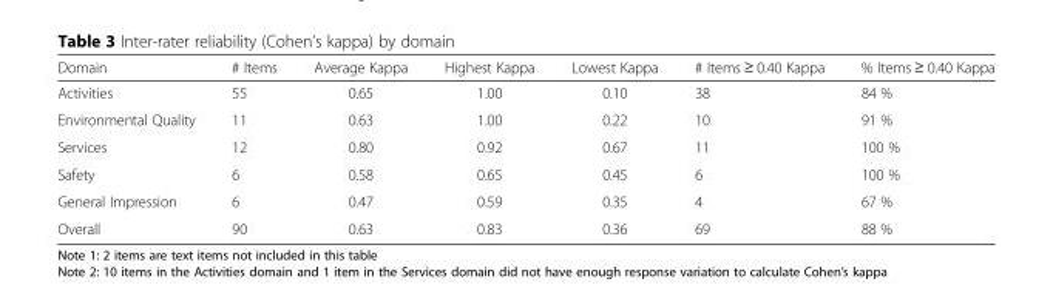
<table><thead><tr><td>Domain</td><td># Items</td><td>Average Kappa</td><td>Highest Kappa</td><td>Lowest Kappa</td><td># Items ≥ 0.40 Kappa</td><td>% Items ≥ 0.40 Kappa</td></tr></thead><tbody><tr><td>Activities</td><td>55</td><td>0.65</td><td>1.00</td><td>0.10</td><td>38</td><td>84 %</td></tr><tr><td>Environmental Quality</td><td>11</td><td>0.63</td><td>1.00</td><td>0.22</td><td>10</td><td>91 %</td></tr><tr><td>Services</td><td>12</td><td>0.80</td><td>0.92</td><td>0.67</td><td>11</td><td>100 %</td></tr><tr><td>Safety</td><td>6</td><td>0.58</td><td>0.65</td><td>0.45</td><td>6</td><td>100 %</td></tr><tr><td>General Impression</td><td>6</td><td>0.47</td><td>0.59</td><td>0.35</td><td>4</td><td>67 %</td></tr><tr><td>Overall</td><td>90</td><td>0.63</td><td>0.83</td><td>0.36</td><td>69</td><td>88 %</td></tr></tbody></table>